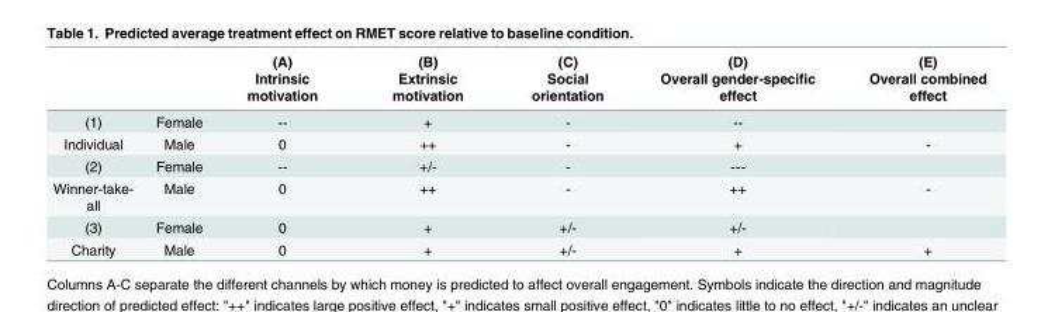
<table><thead><tr><td rowspan="2"></td><td rowspan="2"></td><td rowspan="2">(A) Intrinsic motivation</td><td rowspan="2">(B) Extrinsic motivation</td><td rowspan="2">(C) Social orientation</td><td rowspan="2">(D) Overall gender-specific effect</td><td rowspan="2">(E) Overall combined effect</td></tr><tr></tr></thead><tbody><tr><td>(1)</td><td>Female</td><td>--</td><td>+</td><td>-</td><td>--</td><td></td></tr><tr><td>Individual</td><td>Male</td><td>0</td><td>++</td><td>-</td><td>+</td><td>-</td></tr><tr><td>(2)</td><td>Female</td><td>--</td><td>+/-</td><td>-</td><td>---</td><td></td></tr><tr><td>Winner-take- all</td><td>Male</td><td>0</td><td>++</td><td>-</td><td>++</td><td>-</td></tr><tr><td>(3)</td><td>Female</td><td>0</td><td>+</td><td>+/-</td><td>+/-</td><td></td></tr><tr><td>Charity</td><td>Male</td><td>0</td><td>+</td><td>+/-</td><td>+</td><td>+</td></tr></tbody></table>